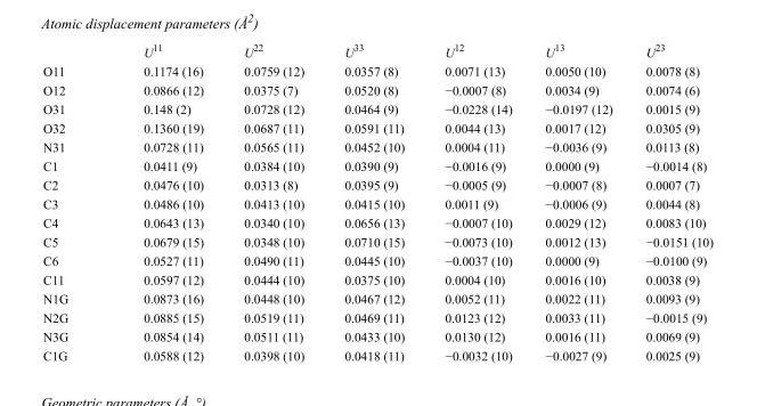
<table><thead><tr><td></td><td>U<sup>11</sup></td><td>U<sup>22</sup></td><td>U<sup>33</sup></td><td>U<sup>12</sup></td><td>U<sup>13</sup></td><td>U<sup>23</sup></td></tr></thead><tbody><tr><td>O11</td><td>0.1174 (16)</td><td>0.0759 (12)</td><td>0.0357 (8)</td><td>0.0071 (13)</td><td>0.0050 (10)</td><td>0.0078 (8)</td></tr><tr><td>O12</td><td>0.0866 (12)</td><td>0.0375 (7)</td><td>0.0520 (8)</td><td>−0.0007 (8)</td><td>0.0034 (9)</td><td>0.0074 (6)</td></tr><tr><td>O31</td><td>0.148 (2)</td><td>0.0728 (12)</td><td>0.0464 (9)</td><td>−0.0228 (14)</td><td>−0.0197 (12)</td><td>0.0015 (9)</td></tr><tr><td>O32</td><td>0.1360 (19)</td><td>0.0687 (11)</td><td>0.0591 (11)</td><td>0.0044 (13)</td><td>0.0017 (12)</td><td>0.0305 (9)</td></tr><tr><td>N31</td><td>0.0728 (11)</td><td>0.0565 (11)</td><td>0.0452 (10)</td><td>0.0004 (11)</td><td>−0.0036 (9)</td><td>0.0113 (8)</td></tr><tr><td>C1</td><td>0.0411 (9)</td><td>0.0384 (10)</td><td>0.0390 (9)</td><td>−0.0016 (9)</td><td>0.0000 (9)</td><td>−0.0014 (8)</td></tr><tr><td>C2</td><td>0.0476 (10)</td><td>0.0313 (8)</td><td>0.0395 (9)</td><td>−0.0005 (9)</td><td>−0.0007 (8)</td><td>0.0007 (7)</td></tr><tr><td>C3</td><td>0.0486 (10)</td><td>0.0413 (10)</td><td>0.0415 (10)</td><td>0.0011 (9)</td><td>−0.0006 (9)</td><td>0.0044 (8)</td></tr><tr><td>C4</td><td>0.0643 (13)</td><td>0.0340 (10)</td><td>0.0656 (13)</td><td>−0.0007 (10)</td><td>0.0029 (12)</td><td>0.0083 (10)</td></tr><tr><td>C5</td><td>0.0679 (15)</td><td>0.0348 (10)</td><td>0.0710 (15)</td><td>−0.0073 (10)</td><td>0.0012 (13)</td><td>−0.0151 (10)</td></tr><tr><td>C6</td><td>0.0527 (11)</td><td>0.0490 (11)</td><td>0.0445 (10)</td><td>−0.0037 (10)</td><td>0.0000 (9)</td><td>−0.0100 (9)</td></tr><tr><td>C11</td><td>0.0597 (12)</td><td>0.0444 (10)</td><td>0.0375 (10)</td><td>0.0004 (10)</td><td>0.0016 (10)</td><td>0.0038 (9)</td></tr><tr><td>N1G</td><td>0.0873 (16)</td><td>0.0448 (10)</td><td>0.0467 (12)</td><td>0.0052 (11)</td><td>0.0022 (11)</td><td>0.0093 (9)</td></tr><tr><td>N2G</td><td>0.0885 (15)</td><td>0.0519 (11)</td><td>0.0469 (11)</td><td>0.0123 (12)</td><td>0.0033 (11)</td><td>−0.0015 (9)</td></tr><tr><td>N3G</td><td>0.0854 (14)</td><td>0.0511 (11)</td><td>0.0433 (10)</td><td>0.0130 (12)</td><td>0.0016 (11)</td><td>0.0069 (9)</td></tr><tr><td>C1G</td><td>0.0588 (12)</td><td>0.0398 (10)</td><td>0.0418 (11)</td><td>−0.0032 (10)</td><td>−0.0027 (9)</td><td>0.0025 (9)</td></tr></tbody></table>